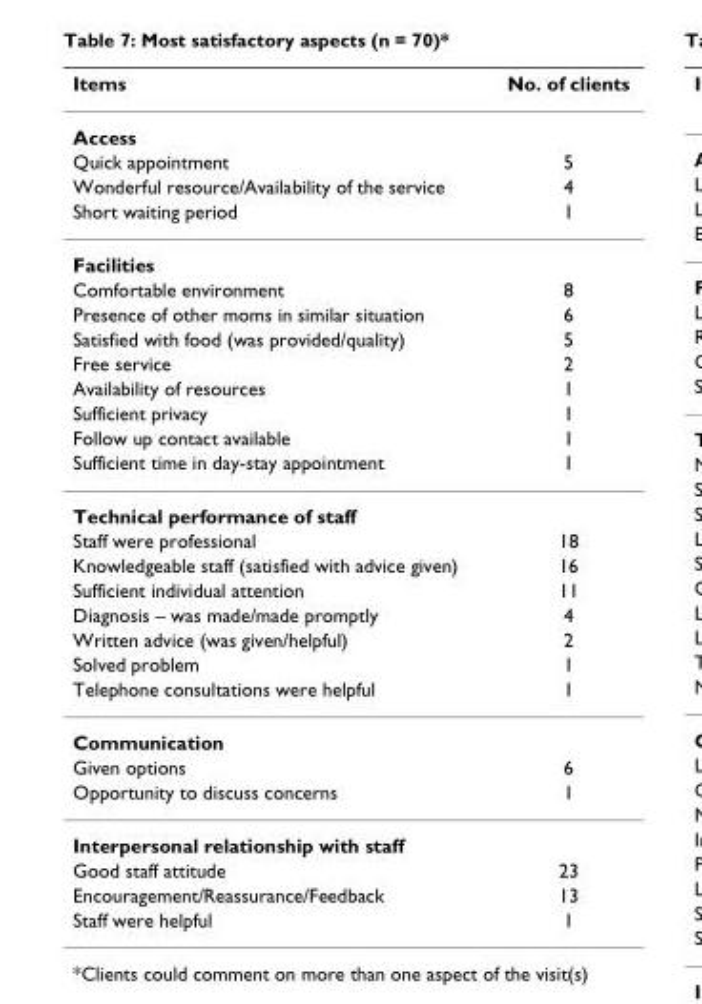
<table><thead><tr><td>Items</td><td>No. of clients</td></tr></thead><tbody><tr><td colspan="2">Access</td></tr><tr><td>Quick appointment</td><td>5</td></tr><tr><td>Wonderful resource/Availability of the service</td><td>4</td></tr><tr><td>Short waiting period</td><td>1</td></tr><tr><td colspan="2">Facilities</td></tr><tr><td>Comfortable environment</td><td>8</td></tr><tr><td>Presence of other moms in similar situation</td><td>6</td></tr><tr><td>Satisfied with food (was provided/quality)</td><td>5</td></tr><tr><td>Free service</td><td>2</td></tr><tr><td>Availability of resources</td><td>1</td></tr><tr><td>Sufficient privacy</td><td>1</td></tr><tr><td>Follow up contact available</td><td>1</td></tr><tr><td>Sufficient time in day-stay appointment</td><td>1</td></tr><tr><td colspan="2">Technical performance of staff</td></tr><tr><td>Staff were professional</td><td>18</td></tr><tr><td>Knowledgeable staff (satisfied with advice given)</td><td>16</td></tr><tr><td>Sufficient individual attention</td><td>11</td></tr><tr><td>Diagnosis – was made/made promptly</td><td>4</td></tr><tr><td>Written advice (was given/helpful)</td><td>2</td></tr><tr><td>Solved problem</td><td>1</td></tr><tr><td>Telephone consultations were helpful</td><td>1</td></tr><tr><td colspan="2">Communication</td></tr><tr><td>Given options</td><td>6</td></tr><tr><td>Opportunity to discuss concerns</td><td>1</td></tr><tr><td colspan="2">Interpersonal relationship with staff</td></tr><tr><td>Good staff attitude</td><td>23</td></tr><tr><td>Encouragement/Reassurance/Feedback</td><td>13</td></tr><tr><td>Staff were helpful</td><td>1</td></tr></tbody></table>